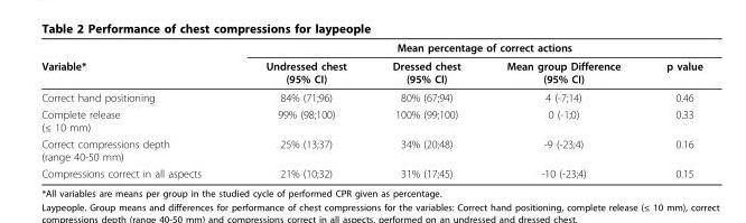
<table><thead><tr><td rowspan="2">Variable*</td><td colspan="4">Mean percentage of correct actions</td></tr><tr><td>Undressed chest (95% CI)</td><td>Dressed chest (95% CI)</td><td>Mean group Difference (95% CI)</td><td>p value</td></tr></thead><tbody><tr><td>Correct hand positioning</td><td>84% (71;96)</td><td>80% (67;94)</td><td>4 (-7;14)</td><td>0.46</td></tr><tr><td>Complete release (≤ 10 mm)</td><td>99% (98;100)</td><td>100% (99;100)</td><td>0 (-1;0)</td><td>0.33</td></tr><tr><td>Correct compressions depth (range 40-50 mm)</td><td>25% (13;37)</td><td>34% (20;48)</td><td>-9 (-23;4)</td><td>0.16</td></tr><tr><td>Compressions correct in all aspects</td><td>21% (10;32)</td><td>31% (17;45)</td><td>-10 (-23;4)</td><td>0.15</td></tr></tbody></table>